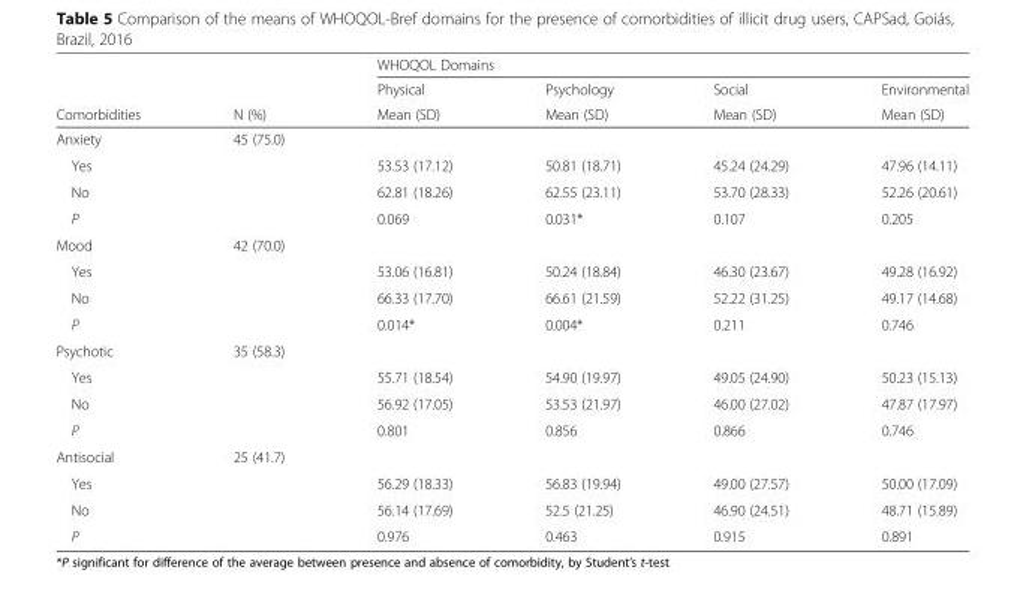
<table><thead><tr><td rowspan="3">Comorbidities</td><td rowspan="3">N (%)</td><td colspan="4">WHOQOL Domains</td></tr><tr><td rowspan="2">Physical Mean (SD)</td><td rowspan="2">Psychology Mean (SD)</td><td rowspan="2">Social Mean (SD)</td><td rowspan="2">Environmental Mean (SD)</td></tr><tr></tr></thead><tbody><tr><td>Anxiety</td><td>45 (75.0)</td><td></td><td></td><td></td><td></td></tr><tr><td>Yes</td><td></td><td>53.53 (17.12)</td><td>50.81 (18.71)</td><td>45.24 (24.29)</td><td>47.96 (14.11)</td></tr><tr><td>No</td><td></td><td>62.81 (18.26)</td><td>62.55 (23.11)</td><td>53.70 (28.33)</td><td>52.26 (20.61)</td></tr><tr><td>P</td><td></td><td>0.069</td><td>0.031*</td><td>0.107</td><td>0.205</td></tr><tr><td>Mood</td><td>42 (70.0)</td><td></td><td></td><td></td><td></td></tr><tr><td>Yes</td><td></td><td>53.06 (16.81)</td><td>50.24 (18.84)</td><td>46.30 (23.67)</td><td>49.28 (16.92)</td></tr><tr><td>No</td><td></td><td>66.33 (17.70)</td><td>66.61 (21.59)</td><td>52.22 (31.25)</td><td>49.17 (14.68)</td></tr><tr><td>P</td><td></td><td>0.014*</td><td>0.004*</td><td>0.211</td><td>0.746</td></tr><tr><td>Psychotic</td><td>35 (58.3)</td><td></td><td></td><td></td><td></td></tr><tr><td>Yes</td><td></td><td>55.71 (18.54)</td><td>54.90 (19.97)</td><td>49.05 (24.90)</td><td>50.23 (15.13)</td></tr><tr><td>No</td><td></td><td>56.92 (17.05)</td><td>53.53 (21.97)</td><td>46.00 (27.02)</td><td>47.87 (17.97)</td></tr><tr><td>P</td><td></td><td>0.801</td><td>0.856</td><td>0.866</td><td>0.746</td></tr><tr><td>Antisocial</td><td>25 (41.7)</td><td></td><td></td><td></td><td></td></tr><tr><td>Yes</td><td></td><td>56.29 (18.33)</td><td>56.83 (19.94)</td><td>49.00 (27.57)</td><td>50.00 (17.09)</td></tr><tr><td>No</td><td></td><td>56.14 (17.69)</td><td>52.5 (21.25)</td><td>46.90 (24.51)</td><td>48.71 (15.89)</td></tr><tr><td>P</td><td></td><td>0.976</td><td>0.463</td><td>0.915</td><td>0.891</td></tr></tbody></table>